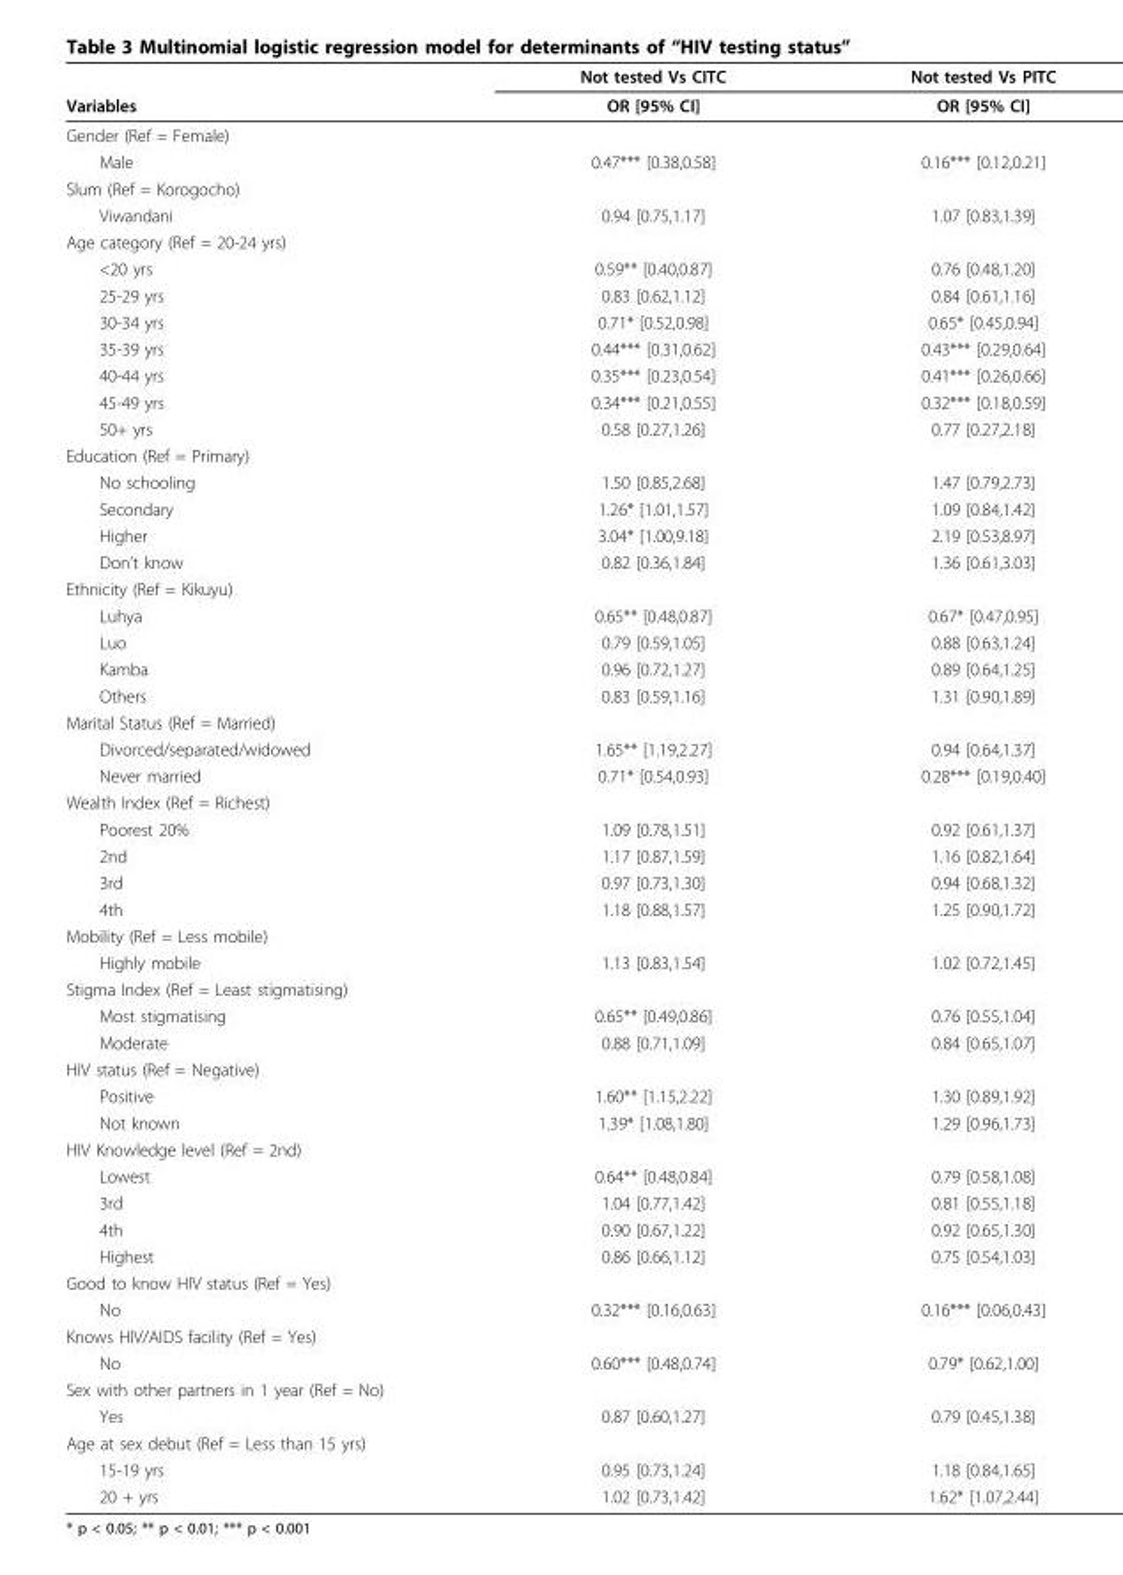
<table><thead><tr><td rowspan="2">Variables</td><td rowspan="2">Not tested Vs CITC OR [95% CI]</td><td rowspan="2">Not tested Vs PITC OR [95% CI]</td></tr><tr></tr></thead><tbody><tr><td colspan="3">Gender (Ref = Female)</td></tr><tr><td>Male</td><td>0.47*** [0.38,0.58]</td><td>0.16*** [0.12,0.21]</td></tr><tr><td colspan="3">Slum (Ref = Korogocho)</td></tr><tr><td>Viwandani</td><td>0.94 [0.75,1.17]</td><td>1.07 [0.83,1.39]</td></tr><tr><td colspan="3">Age category (Ref = 20-24 yrs)</td></tr><tr><td>&lt;20 yrs</td><td>0.59** [0.40,0.87]</td><td>0.76 [0.48,1.20]</td></tr><tr><td>25-29 yrs</td><td>0.83 [0.62,1.12]</td><td>0.84 [0.61,1.16]</td></tr><tr><td>30-34 yrs</td><td>0.71* [0.52,0.98]</td><td>0.65* [0.45,0.94]</td></tr><tr><td>35-39 yrs</td><td>0.44*** [0.31,0.62]</td><td>0.43*** [0.29,0.64]</td></tr><tr><td>40-44 yrs</td><td>0.35*** [0.23,0.54]</td><td>0.41*** [0.26,0.66]</td></tr><tr><td>45-49 yrs</td><td>0.34*** [0.21,0.55]</td><td>0.32*** [0.18,0.59]</td></tr><tr><td>50+ yrs</td><td>0.58 [0.27,1.26]</td><td>0.77 [0.27,2.18]</td></tr><tr><td colspan="3">Education (Ref = Primary)</td></tr><tr><td>No schooling</td><td>1.50 [0.85,2.68]</td><td>1.47 [0.79,2.73]</td></tr><tr><td>Secondary</td><td>1.26* [1.01,1.57]</td><td>1.09 [0.84,1.42]</td></tr><tr><td>Higher</td><td>3.04* [1.00,9.18]</td><td>2.19 [0.53,8.97]</td></tr><tr><td>Don’t know</td><td>0.82 [0.36,1.84]</td><td>1.36 [0.61,3.03]</td></tr><tr><td colspan="3">Ethnicity (Ref = Kikuyu)</td></tr><tr><td>Luhya</td><td>0.65** [0.48,0.87]</td><td>0.67* [0.47,0.95]</td></tr><tr><td>Luo</td><td>0.79 [0.59,1.05]</td><td>0.88 [0.63,1.24]</td></tr><tr><td>Kamba</td><td>0.96 [0.72,1.27]</td><td>0.89 [0.64,1.25]</td></tr><tr><td>Others</td><td>0.83 [0.59,1.16]</td><td>1.31 [0.90,1.89]</td></tr><tr><td colspan="3">Marital Status (Ref = Married)</td></tr><tr><td>Divorced/separated/widowed</td><td>1.65** [1.19,2.27]</td><td>0.94 [0.64,1.37]</td></tr><tr><td>Never married</td><td>0.71* [0.54,0.93]</td><td>0.28*** [0.19,0.40]</td></tr><tr><td colspan="3">Wealth Index (Ref = Richest)</td></tr><tr><td>Poorest 20%</td><td>1.09 [0.78,1.51]</td><td>0.92 [0.61,1.37]</td></tr><tr><td>2nd</td><td>1.17 [0.87,1.59]</td><td>1.16 [0.82,1.64]</td></tr><tr><td>3rd</td><td>0.97 [0.73,1.30]</td><td>0.94 [0.68,1.32]</td></tr><tr><td>4th</td><td>1.18 [0.88,1.57]</td><td>1.25 [0.90,1.72]</td></tr><tr><td colspan="3">Mobility (Ref = Less mobile)</td></tr><tr><td>Highly mobile</td><td>1.13 [0.83,1.54]</td><td>1.02 [0.72,1.45]</td></tr><tr><td colspan="3">Stigma Index (Ref = Least stigmatising)</td></tr><tr><td>Most stigmatising</td><td>0.65** [0.49,0.86]</td><td>0.76 [0.55,1.04]</td></tr><tr><td>Moderate</td><td>0.88 [0.71,1.09]</td><td>0.84 [0.65,1.07]</td></tr><tr><td colspan="3">HIV status (Ref = Negative)</td></tr><tr><td>Positive</td><td>1.60** [1.15,2.22]</td><td>1.30 [0.89,1.92]</td></tr><tr><td>Not known</td><td>1.39* [1.08,1.80]</td><td>1.29 [0.96,1.73]</td></tr><tr><td colspan="3">HIV Knowledge level (Ref = 2nd)</td></tr><tr><td>Lowest</td><td>0.64** [0.48,0.84]</td><td>0.79 [0.58,1.08]</td></tr><tr><td>3rd</td><td>1.04 [0.77,1.42]</td><td>0.81 [0.55,1.18]</td></tr><tr><td>4th</td><td>0.90 [0.67,1.22]</td><td>0.92 [0.65,1.30]</td></tr><tr><td>Highest</td><td>0.86 [0.66,1.12]</td><td>0.75 [0.54,1.03]</td></tr><tr><td colspan="3">Good to know HIV status (Ref = Yes)</td></tr><tr><td>No</td><td>0.32*** [0.16,0.63]</td><td>0.16*** [0.06,0.43]</td></tr><tr><td colspan="3">Knows HIV/AIDS facility (Ref = Yes)</td></tr><tr><td>No</td><td>0.60*** [0.48,0.74]</td><td>0.79* [0.62,1.00]</td></tr><tr><td colspan="3">Sex with other partners in 1 year (Ref = No)</td></tr><tr><td>Yes</td><td>0.87 [0.60,1.27]</td><td>0.79 [0.45,1.38]</td></tr><tr><td colspan="3">Age at sex debut (Ref = Less than 15 yrs)</td></tr><tr><td>15-19 yrs</td><td>0.95 [0.73,1.24]</td><td>1.18 [0.84,1.65]</td></tr><tr><td>20 + yrs</td><td>1.02 [0.73,1.42]</td><td>1.62* [1.07,2.44]</td></tr></tbody></table>